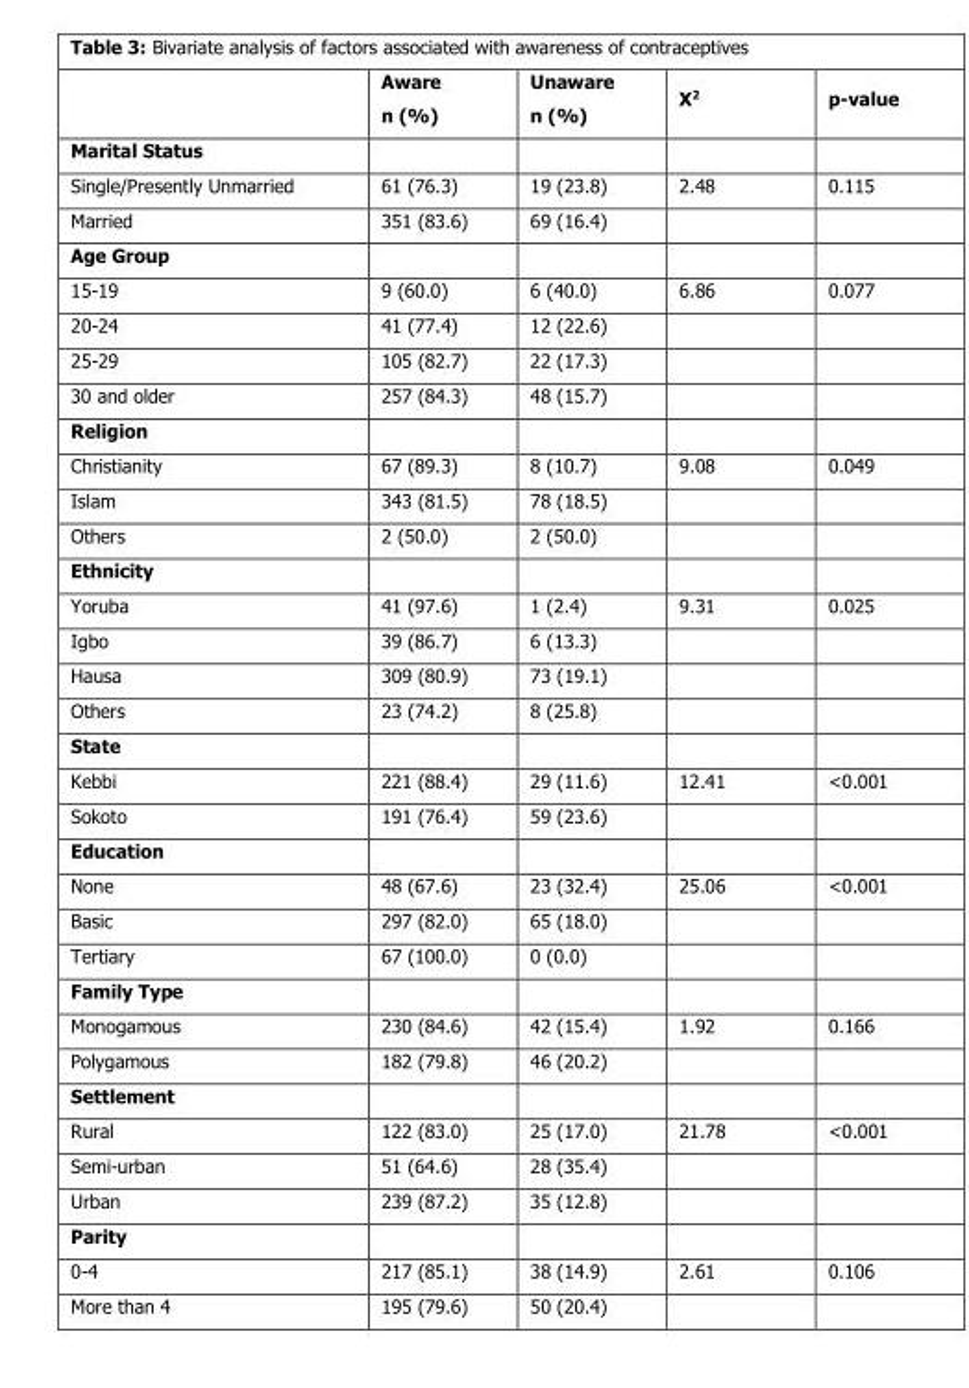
<table><thead><tr><td></td><td>Aware n (%)</td><td>Unaware n (%)</td><td>X2</td><td>p-value</td></tr></thead><tbody><tr><td colspan="5">Marital Status</td></tr><tr><td>Single/Presently Unmarried</td><td>61 (76.3)</td><td>19 (23.8)</td><td>2.48</td><td>0.115</td></tr><tr><td>Married</td><td>351 (83.6)</td><td>69 (16.4)</td><td></td><td></td></tr><tr><td colspan="5">Age Group</td></tr><tr><td>15-19</td><td>9 (60.0)</td><td>6 (40.0)</td><td>6.86</td><td>0.077</td></tr><tr><td>20-24</td><td>41 (77.4)</td><td>12 (22.6)</td><td></td><td></td></tr><tr><td>25-29</td><td>105 (82.7)</td><td>22 (17.3)</td><td></td><td></td></tr><tr><td>30 and older</td><td>257 (84.3)</td><td>48 (15.7)</td><td></td><td></td></tr><tr><td colspan="5">Religion</td></tr><tr><td>Christianity</td><td>67 (89.3)</td><td>8 (10.7)</td><td>9.08</td><td>0.049</td></tr><tr><td>Islam</td><td>343 (81.5)</td><td>78 (18.5)</td><td></td><td></td></tr><tr><td>Others</td><td>2 (50.0)</td><td>2 (50.0)</td><td></td><td></td></tr><tr><td colspan="5">Ethnicity</td></tr><tr><td>Yoruba</td><td>41 (97.6)</td><td>1 (2.4)</td><td>9.31</td><td>0.025</td></tr><tr><td>Igbo</td><td>39 (86.7)</td><td>6 (13.3)</td><td></td><td></td></tr><tr><td>Hausa</td><td>309 (80.9)</td><td>73 (19.1)</td><td></td><td></td></tr><tr><td>Others</td><td>23 (74.2)</td><td>8 (25.8)</td><td></td><td></td></tr><tr><td colspan="5">State</td></tr><tr><td>Kebbi</td><td>221 (88.4)</td><td>29 (11.6)</td><td>12.41</td><td>&lt;0.001</td></tr><tr><td>Sokoto</td><td>191 (76.4)</td><td>59 (23.6)</td><td></td><td></td></tr><tr><td colspan="5">Education</td></tr><tr><td>None</td><td>48 (67.6)</td><td>23 (32.4)</td><td>25.06</td><td>&lt;0.001</td></tr><tr><td>Basic</td><td>297 (82.0)</td><td>65 (18.0)</td><td></td><td></td></tr><tr><td>Tertiary</td><td>67 (100.0)</td><td>0 (0.0)</td><td></td><td></td></tr><tr><td colspan="5">Family Type</td></tr><tr><td>Monogamous</td><td>230 (84.6)</td><td>42 (15.4)</td><td>1.92</td><td>0.166</td></tr><tr><td>Polygamous</td><td>182 (79.8)</td><td>46 (20.2)</td><td></td><td></td></tr><tr><td colspan="5">Settlement</td></tr><tr><td>Rural</td><td>122 (83.0)</td><td>25 (17.0)</td><td>21.78</td><td>&lt;0.001</td></tr><tr><td>Semi-urban</td><td>51 (64.6)</td><td>28 (35.4)</td><td></td><td></td></tr><tr><td>Urban</td><td>239 (87.2)</td><td>35 (12.8)</td><td></td><td></td></tr><tr><td colspan="5">Parity</td></tr><tr><td>0-4</td><td>217 (85.1)</td><td>38 (14.9)</td><td>2.61</td><td>0.106</td></tr><tr><td>More than 4</td><td>195 (79.6)</td><td>50 (20.4)</td><td></td><td></td></tr></tbody></table>